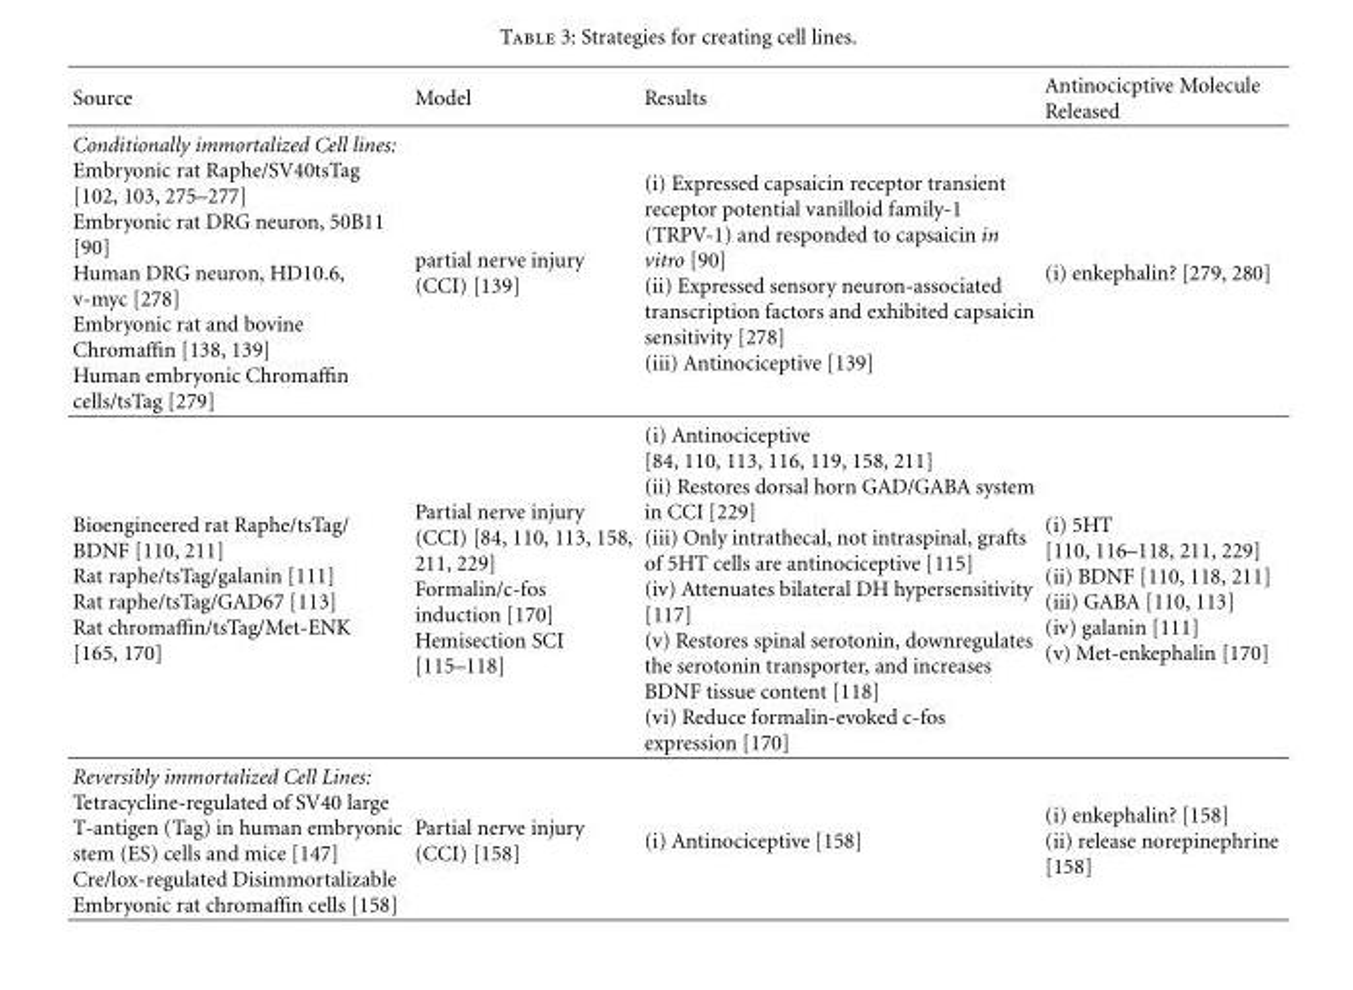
<table><thead><tr><td>Source</td><td>Model</td><td>Results</td><td>Antinocicptive Molecule Released</td></tr></thead><tbody><tr><td>Conditionally immortalized Cell lines: Embryonic rat Raphe/SV40tsTag [102, 103, 275–277] Embryonic rat DRG neuron, 50B11 [90] Human DRG neuron, HD10.6, v-myc [278] Embryonic rat and bovine Chromaffin [138, 139] Human embryonic Chromaffin cells/tsTag [279]</td><td>partial nerve injury (CCI) [139]</td><td>(i) Expressed capsaicin receptor transient receptor potential vanilloid family-1 (TRPV-1) and responded to capsaicin in vitro [90] (ii) Expressed sensory neuron-associated transcription factors and exhibited capsaicin sensitivity [278] (iii) Antinociceptive [139]</td><td>(i) enkephalin? [279, 280]</td></tr><tr><td>Bioengineered rat Raphe/tsTag/ BDNF [110, 211] Rat raphe/tsTag/galanin [111] Rat raphe/tsTag/GAD67 [113] Rat chromaffin/tsTag/Met-ENK [165, 170]</td><td>Partial nerve injury (CCI) [84, 110, 113, 158, 211, 229] Formalin/c-fos induction [170] Hemisection SCI [115–118]</td><td>(i) Antinociceptive [84, 110, 113, 116, 119, 158, 211] (ii) Restores dorsal horn GAD/GABA system in CCI [229] (iii) Only intrathecal, not intraspinal, grafts of 5HT cells are antinociceptive [115] (iv) Attenuates bilateral DH hypersensitivity [117] (v) Restores spinal serotonin, downregulates the serotonin transporter, and increases BDNF tissue content [118] (vi) Reduce formalin-evoked c-fos expression [170]</td><td>(i) 5HT [110, 116–118, 211, 229] (ii) BDNF [110, 118, 211] (iii) GABA [110, 113] (iv) galanin [111] (v) Met-enkephalin [170]</td></tr><tr><td>Reversibly immortalized Cell Lines: Tetracycline-regulated of SV40 large T-antigen (Tag) in human embryonic stem (ES) cells and mice [147] Cre/lox-regulated Disimmortalizable Embryonic rat chromaffin cells [158]</td><td>Partial nerve injury (CCI) [158]</td><td>(i) Antinociceptive [158]</td><td>(i) enkephalin? [158] (ii) release norepinephrine [158]</td></tr></tbody></table>